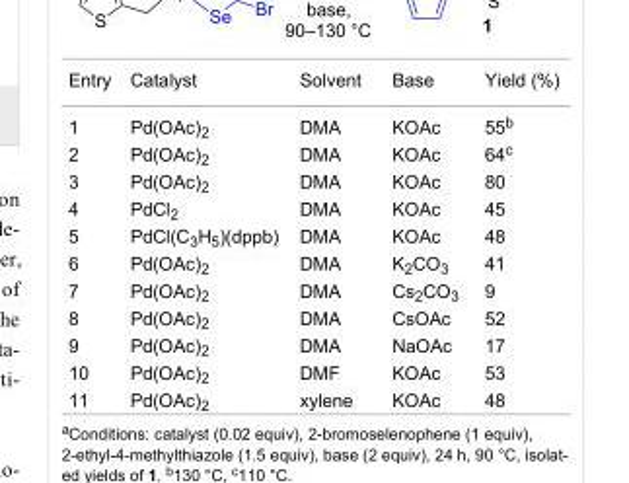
<table><tbody><tr><td>Entry</td><td>Catalyst</td><td>Solvent</td><td>Base</td><td>Yield (%)</td></tr><tr><td>1</td><td>Pd(OAc)<sub>2</sub></td><td>DMA</td><td>KOAc</td><td>55<sup>b</sup></td></tr><tr><td>2</td><td>Pd(OAc)<sub>2</sub></td><td>DMA</td><td>KOAc</td><td>64<sup>c</sup></td></tr><tr><td>3</td><td>Pd(OAc)<sub>2</sub></td><td>DMA</td><td>KOAc</td><td>80</td></tr><tr><td>4</td><td>PdCl<sub>2</sub></td><td>DMA</td><td>KOAc</td><td>45</td></tr><tr><td>5</td><td>PdCl(C<sub>3</sub>H<sub>5</sub>)(dppb)</td><td>DMA</td><td>KOAc</td><td>48</td></tr><tr><td>6</td><td>Pd(OAc)<sub>2</sub></td><td>DMA</td><td>K<sub>2</sub>CO<sub>3</sub></td><td>41</td></tr><tr><td>7</td><td>Pd(OAc)<sub>2</sub></td><td>DMA</td><td>Cs<sub>2</sub>CO<sub>3</sub></td><td>9</td></tr><tr><td>8</td><td>Pd(OAc)<sub>2</sub></td><td>DMA</td><td>CsOAc</td><td>52</td></tr><tr><td>9</td><td>Pd(OAc)<sub>2</sub></td><td>DMA</td><td>NaOAc</td><td>17</td></tr><tr><td>10</td><td>Pd(OAc)<sub>2</sub></td><td>DMF</td><td>KOAc</td><td>53</td></tr><tr><td>11</td><td>Pd(OAc)<sub>2</sub></td><td>xylene</td><td>KOAc</td><td>48</td></tr></tbody></table>